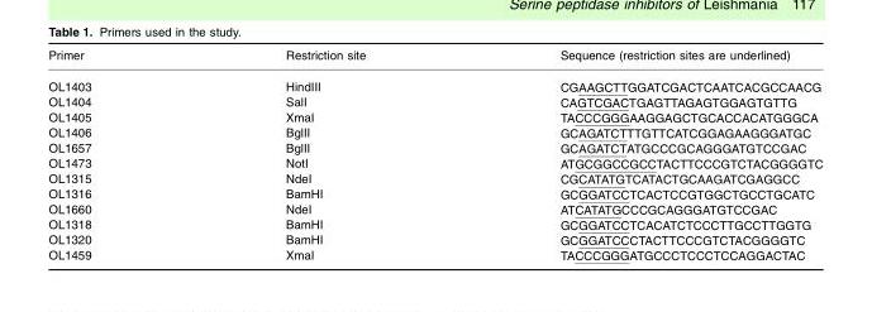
<table><thead><tr><td>Primer</td><td>Restriction site</td><td>Sequence (restriction sites are underlined)</td></tr></thead><tbody><tr><td>OL1403</td><td>HindIII</td><td>CGAAGCTTGGATCGACTCAATCACGCCAACG</td></tr><tr><td>OL1404</td><td>SalI</td><td>CAGTCGACTGAGTTAGAGTGGAGTGTTG</td></tr><tr><td>OL1405</td><td>XmaI</td><td>TACCCGGGAAGGAGCTGCACCACATGGGCA</td></tr><tr><td>OL1406</td><td>BglII</td><td>GCAGATCTTTGTTCATCGGAGAAGGGATGC</td></tr><tr><td>OL1657</td><td>BglII</td><td>GCAGATCTATGCCCGCAGGGATGTCCGAC</td></tr><tr><td>OL1473</td><td>NotI</td><td>ATGCGGCCGCCTACTTCCCGTCTACGGGGTC</td></tr><tr><td>OL1315</td><td>NdeI</td><td>CGCATATGTCATACTGCAAGATCGAGGCC</td></tr><tr><td>OL1316</td><td>BamHI</td><td>GCGGATCCTCACTCCGTGGCTGCCTGCATC</td></tr><tr><td>OL1660</td><td>NdeI</td><td>ATCATATGCCCGCAGGGATGTCCGAC</td></tr><tr><td>OL1318</td><td>BamHI</td><td>GCGGATCCTCACATCTCCCTTGCCTTGGTG</td></tr><tr><td>OL1320</td><td>BamHI</td><td>GCGGATCCCTACTTCCCGTCTACGGGGTC</td></tr><tr><td>OL1459</td><td>XmaI</td><td>TACCCGGGATGCCCTCCCTCCAGGACTAC</td></tr></tbody></table>